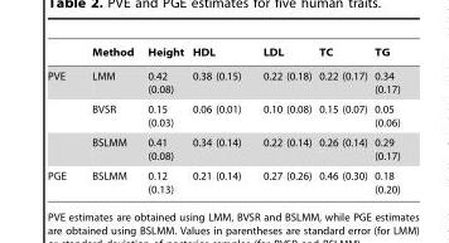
<table><thead><tr><td></td><td>Method</td><td>Height</td><td>HDL</td><td>LDL</td><td>TC</td><td>TG</td></tr></thead><tbody><tr><td rowspan="3">PVE</td><td>LMM</td><td>0.42 (0.08)</td><td>0.38 (0.15)</td><td>0.22 (0.18)</td><td>0.22 (0.17)</td><td>0.34 (0.17)</td></tr><tr><td>BVSR</td><td>0.15 (0.03)</td><td>0.06 (0.01)</td><td>0.10 (0.08)</td><td>0.15 (0.07)</td><td>0.05 (0.06)</td></tr><tr><td>BSLMM</td><td>0.41 (0.08)</td><td>0.34 (0.14)</td><td>0.22 (0.14)</td><td>0.26 (0.14)</td><td>0.29 (0.17)</td></tr><tr><td>PGE</td><td>BSLMM</td><td>0.12 (0.13)</td><td>0.21 (0.14)</td><td>0.27 (0.26)</td><td>0.46 (0.30)</td><td>0.18 (0.20)</td></tr></tbody></table>